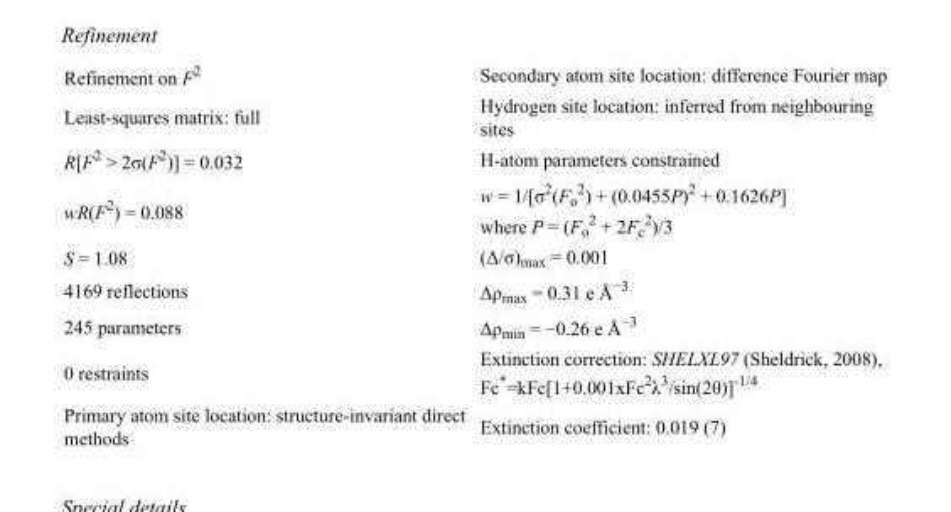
<table><tbody><tr><td>Refinement on F<sup>2</sup></td><td>Secondary atom site location: difference Fourier map</td></tr><tr><td>Least-squares matrix: full</td><td>Hydrogen site location: inferred from neighbouring sites</td></tr><tr><td>R[F<sup>2</sup> &gt; 2σ(F<sup>2</sup>)] = 0.032</td><td>H-atom parameters constrained</td></tr><tr><td>wR(F<sup>2</sup>) = 0.088</td><td>w = 1/[σ<sup>2</sup>(F<sub>o</sub> <sup>2</sup>) + (0.0455P)<sup>2</sup> + 0.1626P] where P = (F<sub>o</sub> <sup>2</sup> + 2F<sub>c</sub> <sup>2</sup>)/3</td></tr><tr><td>S = 1.08</td><td>(Δ/σ)<sub>max</sub> = 0.001</td></tr><tr><td>4169 reflections</td><td>Δρ<sub>max</sub> = 0.31 e Å<sup>−3</sup></td></tr><tr><td>245 parameters</td><td>Δρ<sub>min</sub> = −0.26 e Å<sup>−3</sup></td></tr><tr><td>0 restraints</td><td>Extinction correction: SHELXL97 (Sheldrick, 2008), Fc*=kFc[1+0.001xFc<sup>2</sup>λ<sup>3</sup>/sin(2θ)]<sup>-1/4</sup></td></tr><tr><td>Primary atom site location: structure-invariant direct methods</td><td>Extinction coefficient: 0.019 (7)</td></tr></tbody></table>